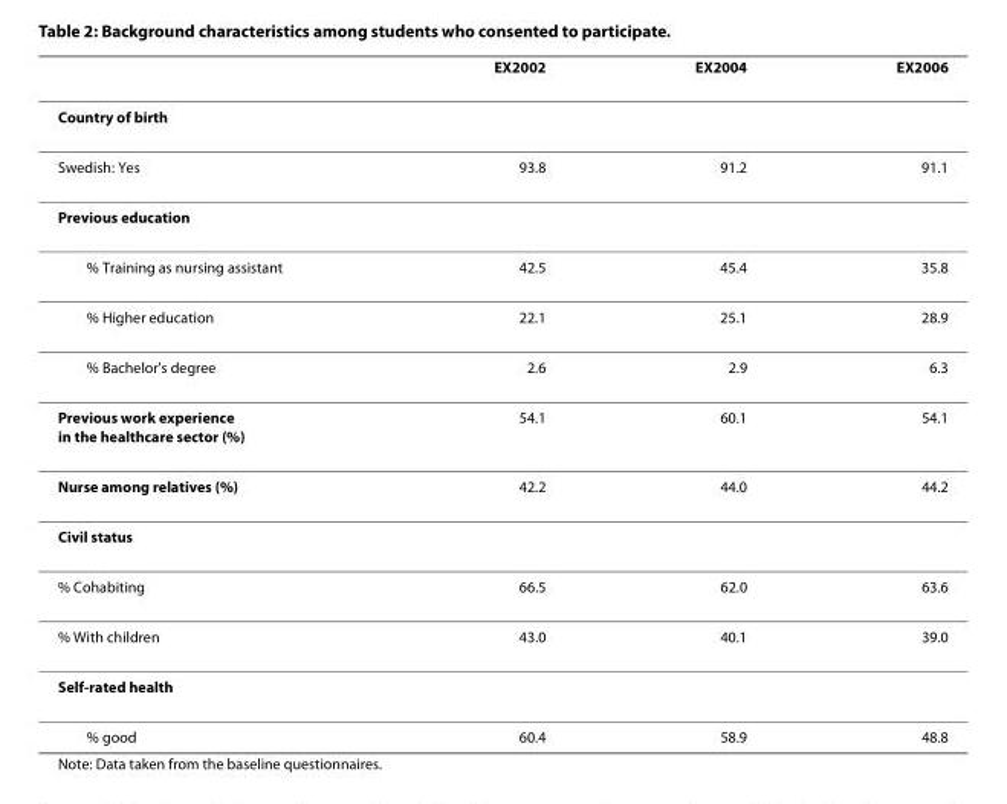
<table><thead><tr><td></td><td>EX2002</td><td>EX2004</td><td>EX2006</td></tr></thead><tbody><tr><td colspan="4">Country of birth</td></tr><tr><td>Swedish: Yes</td><td>93.8</td><td>91.2</td><td>91.1</td></tr><tr><td colspan="4">Previous education</td></tr><tr><td>% Training as nursing assistant</td><td>42.5</td><td>45.4</td><td>35.8</td></tr><tr><td>% Higher education</td><td>22.1</td><td>25.1</td><td>28.9</td></tr><tr><td>% Bachelor&#x27;s degree</td><td>2.6</td><td>2.9</td><td>6.3</td></tr><tr><td>Previous work experience in the healthcare sector (%)</td><td>54.1</td><td>60.1</td><td>54.1</td></tr><tr><td>Nurse among relatives (%)</td><td>42.2</td><td>44.0</td><td>44.2</td></tr><tr><td colspan="4">Civil status</td></tr><tr><td>% Cohabiting</td><td>66.5</td><td>62.0</td><td>63.6</td></tr><tr><td>% With children</td><td>43.0</td><td>40.1</td><td>39.0</td></tr><tr><td colspan="4">Self-rated health</td></tr><tr><td>% good</td><td>60.4</td><td>58.9</td><td>48.8</td></tr></tbody></table>